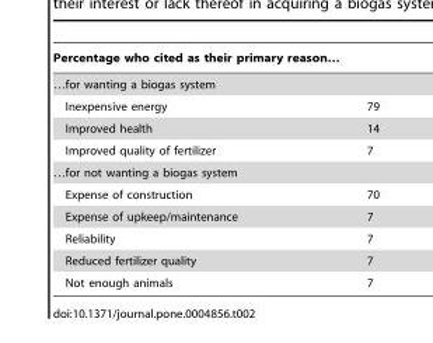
<table><thead><tr><td rowspan="2" colspan="2">Percentage who cited as their primary reason… …for wanting a biogas system</td></tr><tr></tr><tr><td>Inexpensive energy</td><td>79</td></tr></thead><tbody><tr><td>Improved health</td><td>14</td></tr><tr><td>Improved quality of fertilizer</td><td>7</td></tr><tr><td colspan="2">…for not wanting a biogas system</td></tr><tr><td>Expense of construction</td><td>70</td></tr><tr><td>Expense of upkeep/maintenance</td><td>7</td></tr><tr><td>Reliability</td><td>7</td></tr><tr><td>Reduced fertilizer quality</td><td>7</td></tr><tr><td>Not enough animals</td><td>7</td></tr></tbody></table>